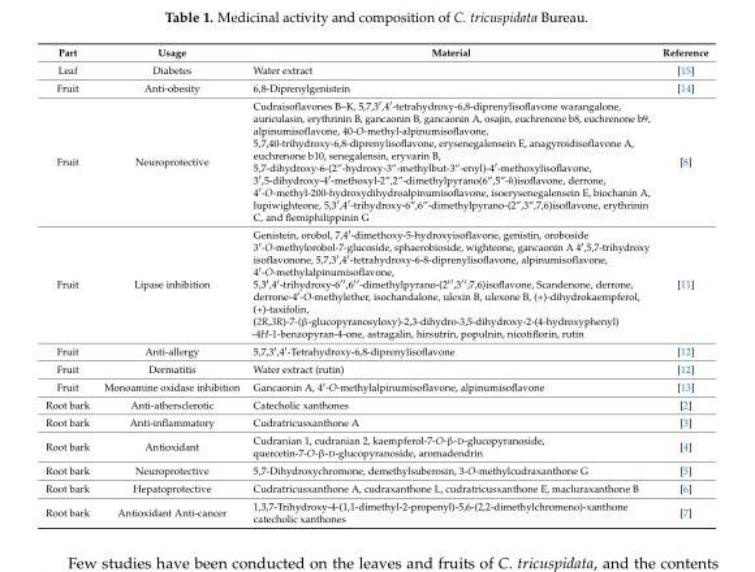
<table><thead><tr><td>Part</td><td>Usage</td><td>Material</td><td>Reference</td></tr></thead><tbody><tr><td>Leaf</td><td>Diabetes</td><td>Water extract</td><td>[15]</td></tr><tr><td>Fruit</td><td>Anti-obesity</td><td>6,8-Diprenylgenistein</td><td>[14]</td></tr><tr><td>Fruit</td><td>Neuroprotective</td><td>Cudraisoflavones B–K, 5,7,3′,4′-tetrahydroxy-6,8-diprenylisoflavone warangalone, auriculasin, erythrinin B, gancaonin B, gancaonin A, osajin, euchrenone b8, euchrenone b9, alpinumisoflavone, 40-O-methyl-alpinumisoflavone, 5,7,40-trihydroxy-6,8-diprenylisoflavone, erysenegalensein E, anagyroidisoflavone A, euchrenone b10, senegalensin, eryvarin B, 5,7-dihydroxy-6-(2”-hydroxy-3”-methylbut-3”-enyl)-4′-methoxylisoflavone, 3′,5-dihydroxy-4′-methoxyl-2”,2”-dimethylpyrano(6”,5”-h)isoflavone, derrone, 4′-O-methyl-200-hydroxydihydroalpinumisoflavone, isoerysenegalensein E, biochanin A, lupiwighteone, 5,3′,4′-trihydroxy-6”,6”-dimethylpyrano-(2”,3”,7,6)isoflavone, erythrinin C, and flemiphilippinin G</td><td>[8]</td></tr><tr><td>Fruit</td><td>Lipase inhibition</td><td>Genistein, orobol, 7,4′-dimethoxy-5-hydroxyisoflavone, genistin, oroboside 3′-O-methylorobol-7-glucoside, sphaerobioside, wighteone, gancaonin A 4′,5,7-trihydroxy isoflavonone, 5,7,3′,4′-tetrahydroxy-6-8-diprenylisoflavone, alpinumisoflavone, 4′-O-methylalpinumisoflavone, 5,3′,4′-trihydroxy-6′′,6′′-dimethylpyrano-(2′′,3′′;7,6)isoflavone, Scandenone, derrone, derrone-4′-O-methylether, isochandalone, ulexin B, ulexone B, (+)-dihydrokaempferol, (+)-taxifolin, (2R,3R)-7-(β-glucopyranosyloxy)-2,3-dihydro-3,5-dihydroxy-2-(4-hydroxyphenyl) -4H-1-benzopyran-4-one, astragalin, hirsutrin, populnin, nicotiflorin, rutin</td><td>[11]</td></tr><tr><td>Fruit</td><td>Anti-allergy</td><td>5,7,3′,4′-Tetrahydroxy-6,8-diprenylisoflavone</td><td>[12]</td></tr><tr><td>Fruit</td><td>Dermatitis</td><td>Water extract (rutin)</td><td>[12]</td></tr><tr><td>Fruit</td><td>Monoamine oxidase inhibition</td><td>Gancaonin A, 4′-O-methylalpinumisoflavone, alpinumisoflavone</td><td>[13]</td></tr><tr><td>Root bark</td><td>Anti-athersclerotic</td><td>Catecholic xanthones</td><td>[2]</td></tr><tr><td>Root bark</td><td>Anti-inflammatory</td><td>Cudratricusxanthone A</td><td>[3]</td></tr><tr><td>Root bark</td><td>Antioxidant</td><td>Cudranian 1, cudranian 2, kaempferol-7-O-β-D-glucopyranoside, quercetin-7-O-β-D-glucopyranoside, aromadendrin</td><td>[4]</td></tr><tr><td>Root bark</td><td>Neuroprotective</td><td>5,7-Dihydroxychromone, demethylsuberosin, 3-O-methylcudraxanthone G</td><td>[5]</td></tr><tr><td>Root bark</td><td>Hepatoprotective</td><td>Cudratricusxanthone A, cudraxanthone L, cudratricusxanthone E, macluraxanthone B</td><td>[6]</td></tr><tr><td>Root bark</td><td>Antioxidant Anti-cancer</td><td>1,3,7-Trihydroxy-4-(1,1-dimethyl-2-propenyl)-5,6-(2,2-dimethylchromeno)-xanthone catecholic xanthones</td><td>[7]</td></tr></tbody></table>